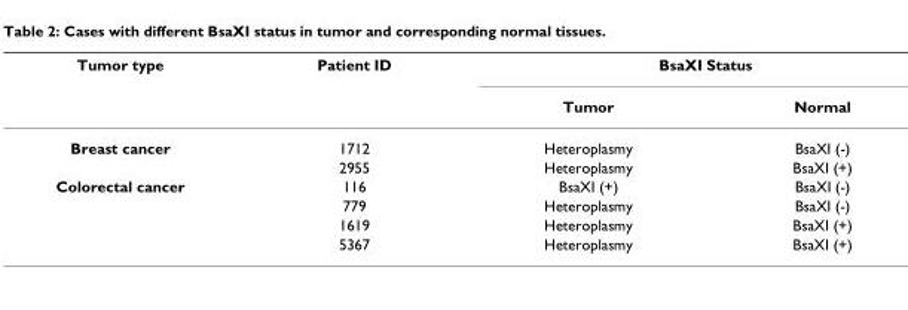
<table><thead><tr><td rowspan="2">Tumor type</td><td rowspan="2">Patient ID</td><td colspan="2">BsaXI Status</td></tr><tr><td>Tumor</td><td>Normal</td></tr></thead><tbody><tr><td rowspan="2">Breast cancer</td><td>1712</td><td>Heteroplasmy</td><td>BsaXI (-)</td></tr><tr><td>2955</td><td>Heteroplasmy</td><td>BsaXI (+)</td></tr><tr><td rowspan="4">Colorectal cancer</td><td>116</td><td>BsaXI (+)</td><td>BsaXI (-)</td></tr><tr><td>779</td><td>Heteroplasmy</td><td>BsaXI (-)</td></tr><tr><td>1619</td><td>Heteroplasmy</td><td>BsaXI (+)</td></tr><tr><td>5367</td><td>Heteroplasmy</td><td>BsaXI (+)</td></tr></tbody></table>